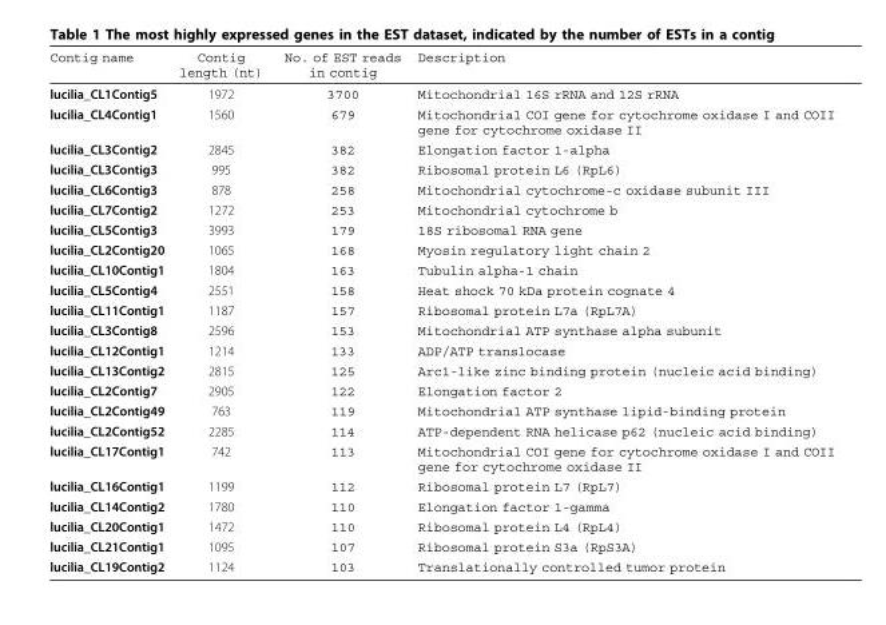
<table><thead><tr><td>Contig name</td><td>Contig length (nt)</td><td>No. of EST reads in contig</td><td>Description</td></tr></thead><tbody><tr><td>lucilia_CL1Contig5</td><td>1972</td><td>3700</td><td>Mitochondrial 16S rRNA and 12S rRNA</td></tr><tr><td>lucilia_CL4Contig1</td><td>1560</td><td>679</td><td>Mitochondrial COI gene for cytochrome oxidase I and COII gene for cytochrome oxidase II</td></tr><tr><td>lucilia_CL3Contig2</td><td>2845</td><td>382</td><td>Elongation factor 1-alpha</td></tr><tr><td>lucilia_CL3Contig3</td><td>995</td><td>382</td><td>Ribosomal protein L6 (RpL6)</td></tr><tr><td>lucilia_CL6Contig3</td><td>878</td><td>258</td><td>Mitochondrial cytochrome-c oxidase subunit III</td></tr><tr><td>lucilia_CL7Contig2</td><td>1272</td><td>253</td><td>Mitochondrial cytochrome b</td></tr><tr><td>lucilia_CL5Contig3</td><td>3993</td><td>179</td><td>18S ribosomal RNA gene</td></tr><tr><td>lucilia_CL2Contig20</td><td>1065</td><td>168</td><td>Myosin regulatory light chain 2</td></tr><tr><td>lucilia_CL10Contig1</td><td>1804</td><td>163</td><td>Tubulin alpha-1 chain</td></tr><tr><td>lucilia_CL5Contig4</td><td>2551</td><td>158</td><td>Heat shock 70 kDa protein cognate 4</td></tr><tr><td>lucilia_CL11Contig1</td><td>1187</td><td>157</td><td>Ribosomal protein L7a (RpL7A)</td></tr><tr><td>lucilia_CL3Contig8</td><td>2596</td><td>153</td><td>Mitochondrial ATP synthase alpha subunit</td></tr><tr><td>lucilia_CL12Contig1</td><td>1214</td><td>133</td><td>ADP/ATP translocase</td></tr><tr><td>lucilia_CL13Contig2</td><td>2815</td><td>125</td><td>Arc1-like zinc binding protein (nucleic acid binding)</td></tr><tr><td>lucilia_CL2Contig7</td><td>2905</td><td>122</td><td>Elongation factor 2</td></tr><tr><td>lucilia_CL2Contig49</td><td>763</td><td>119</td><td>Mitochondrial ATP synthase lipid-binding protein</td></tr><tr><td>lucilia_CL2Contig52</td><td>2285</td><td>114</td><td>ATP-dependent RNA helicase p62 (nucleic acid binding)</td></tr><tr><td>lucilia_CL17Contig1</td><td>742</td><td>113</td><td>Mitochondrial COI gene for cytochrome oxidase I and COII gene for cytochrome oxidase II</td></tr><tr><td>lucilia_CL16Contig1</td><td>1199</td><td>112</td><td>Ribosomal protein L7 (RpL7)</td></tr><tr><td>lucilia_CL14Contig2</td><td>1780</td><td>110</td><td>Elongation factor 1-gamma</td></tr><tr><td>lucilia_CL20Contig1</td><td>1472</td><td>110</td><td>Ribosomal protein L4 (RpL4)</td></tr><tr><td>lucilia_CL21Contig1</td><td>1095</td><td>107</td><td>Ribosomal protein S3a (RpS3A)</td></tr><tr><td>lucilia_CL19Contig2</td><td>1124</td><td>103</td><td>Translationally controlled tumor protein</td></tr></tbody></table>